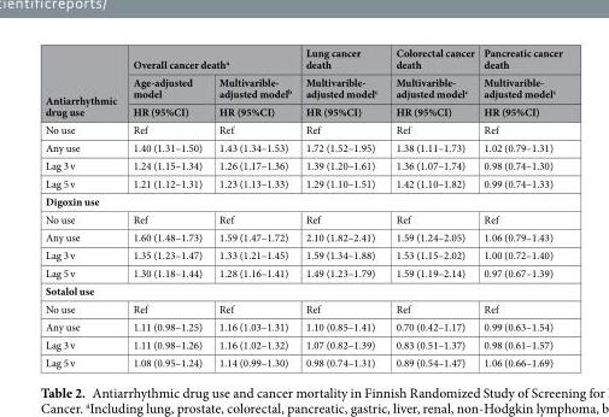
<table><thead><tr><td rowspan="3">Antiarrhythmic drug use</td><td colspan="2">Overall cancer death<sup>a</sup></td><td rowspan="3">Lung cancer death Multivarible- adjusted model<sup>c</sup> HR (95%CI)</td><td rowspan="3">Colorectal cancer death Multivarible- adjusted model<sup>c</sup> HR (95%CI)</td><td rowspan="3">Pancreatic cancer death Multivarible- adjusted model<sup>c</sup> HR (95%CI)</td></tr><tr><td rowspan="2">Age-adjusted model HR (95%CI)</td><td rowspan="2">Multivarible- adjusted model<sup>b</sup> HR (95%CI)</td></tr><tr></tr></thead><tbody><tr><td>No use</td><td>Ref</td><td>Ref</td><td>Ref</td><td>Ref</td><td>Ref</td></tr><tr><td>Any use</td><td>1.40 (1.31–1.50)</td><td>1.43 (1.34–1.53)</td><td>1.72 (1.52–1.95)</td><td>1.38 (1.11–1.73)</td><td>1.02 (0.79–1.31)</td></tr><tr><td>Lag 3 v</td><td>1.24 (1.15–1.34)</td><td>1.26 (1.17–1.36)</td><td>1.39 (1.20–1.61)</td><td>1.36 (1.07–1.74)</td><td>0.98 (0.74–1.30)</td></tr><tr><td>Lag 5 v</td><td>1.21 (1.12–1.31)</td><td>1.23 (1.13–1.33)</td><td>1.29 (1.10–1.51)</td><td>1.42 (1.10–1.82)</td><td>0.99 (0.74–1.33)</td></tr><tr><td colspan="6">Digoxin use</td></tr><tr><td>No use</td><td>Ref</td><td>Ref</td><td>Ref</td><td>Ref</td><td>Ref</td></tr><tr><td>Any use</td><td>1.60 (1.48–1.73)</td><td>1.59 (1.47–1.72)</td><td>2.10 (1.82–2.41)</td><td>1.59 (1.24–2.05)</td><td>1.06 (0.79–1.43)</td></tr><tr><td>Lag 3 v</td><td>1.35 (1.23–1.47)</td><td>1.33 (1.21–1.45)</td><td>1.59 (1.34–1.88)</td><td>1.53 (1.15–2.02)</td><td>1.00 (0.72–1.40)</td></tr><tr><td>Lag 5 v</td><td>1.30 (1.18–1.44)</td><td>1.28 (1.16–1.41)</td><td>1.49 (1.23–1.79)</td><td>1.59 (1.19–2.14)</td><td>0.97 (0.67–1.39)</td></tr><tr><td colspan="6">Sotalol use</td></tr><tr><td>No use</td><td>Ref</td><td>Ref</td><td>Ref</td><td>Ref</td><td>Ref</td></tr><tr><td>Any use</td><td>1.11 (0.98–1.25)</td><td>1.16 (1.03–1.31)</td><td>1.10 (0.85–1.41)</td><td>0.70 (0.42–1.17)</td><td>0.99 (0.63–1.54)</td></tr><tr><td>Lag 3 v</td><td>1.11 (0.98–1.26)</td><td>1.16 (1.02–1.32)</td><td>1.07 (0.82–1.39)</td><td>0.83 (0.51–1.37)</td><td>0.98 (0.61–1.57)</td></tr><tr><td>Lag 5 v</td><td>1.08 (0.95–1.24)</td><td>1.14 (0.99–1.30)</td><td>0.98 (0.74–1.31)</td><td>0.89 (0.54–1.47)</td><td>1.06 (0.66–1.69)</td></tr></tbody></table>